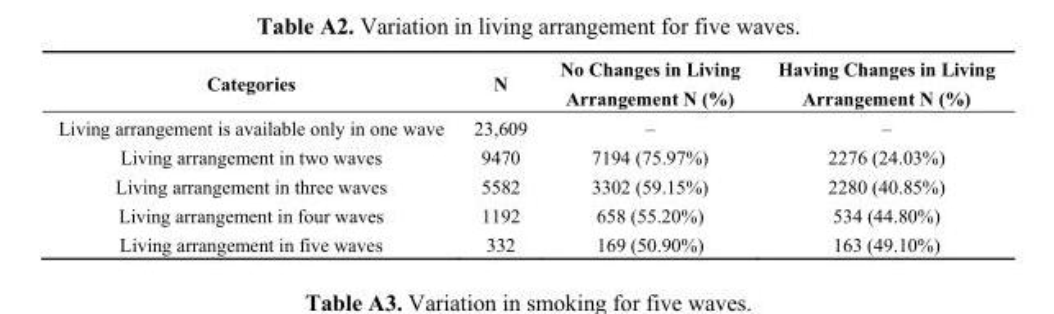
<table><thead><tr><td>Categories</td><td>N</td><td>No Changes in Living Arrangement N (%)</td><td>Having Changes in Living Arrangement N (%)</td></tr></thead><tbody><tr><td>Living arrangement is available only in one wave</td><td>23,609</td><td>–</td><td>–</td></tr><tr><td>Living arrangement in two waves</td><td>9470</td><td>7194 (75.97%)</td><td>2276 (24.03%)</td></tr><tr><td>Living arrangement in three waves</td><td>5582</td><td>3302 (59.15%)</td><td>2280 (40.85%)</td></tr><tr><td>Living arrangement in four waves</td><td>1192</td><td>658 (55.20%)</td><td>534 (44.80%)</td></tr><tr><td>Living arrangement in five waves</td><td>332</td><td>169 (50.90%)</td><td>163 (49.10%)</td></tr></tbody></table>